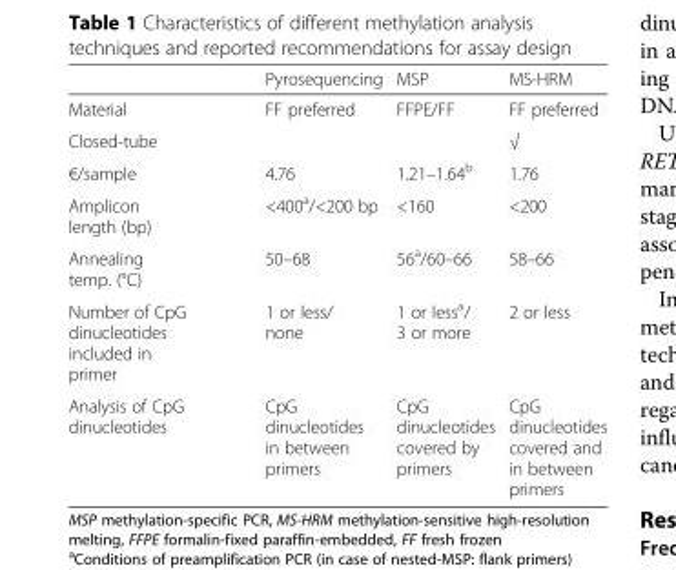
<table><thead><tr><td></td><td>Pyrosequencing</td><td>MSP</td><td>MS-HRM</td></tr></thead><tbody><tr><td>Material</td><td>FF preferred</td><td>FFPE/FF</td><td>FF preferred</td></tr><tr><td>Closed-tube</td><td></td><td></td><td>√</td></tr><tr><td>€/sample</td><td>4.76</td><td>1.21–1.64<sup>b</sup></td><td>1.76</td></tr><tr><td>Amplicon length (bp)</td><td>&lt;400<sup>a</sup>/&lt;200 bp</td><td>&lt;160</td><td>&lt;200</td></tr><tr><td>Annealing temp. (°C)</td><td>50–68</td><td>56<sup>a</sup>/60–66</td><td>58–66</td></tr><tr><td>Number of CpG dinucleotides included in primer</td><td>1 or less/ none</td><td>1 or less<sup>a</sup>/ 3 or more</td><td>2 or less</td></tr><tr><td>Analysis of CpG dinucleotides</td><td>CpG dinucleotides in between primers</td><td>CpG dinucleotides covered by primers</td><td>CpG dinucleotides covered and in between primers</td></tr></tbody></table>